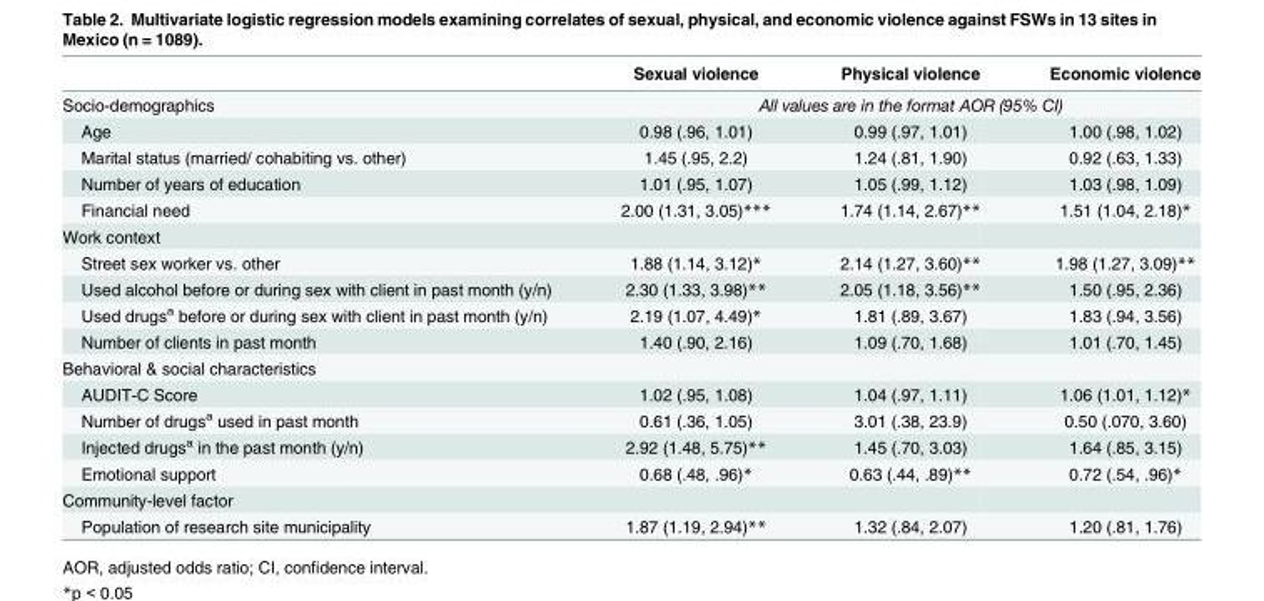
<table><thead><tr><td></td><td>Sexual violence</td><td>Physical violence</td><td>Economic violence</td></tr></thead><tbody><tr><td>Socio-demographics</td><td colspan="3">All values are in the format AOR (95% CI)</td></tr><tr><td>Age</td><td>0.98 (.96, 1.01)</td><td>0.99 (.97, 1.01)</td><td>1.00 (.98, 1.02)</td></tr><tr><td>Marital status (married/ cohabiting vs. other)</td><td>1.45 (.95, 2.2)</td><td>1.24 (.81, 1.90)</td><td>0.92 (.63, 1.33)</td></tr><tr><td>Number of years of education</td><td>1.01 (.95, 1.07)</td><td>1.05 (.99, 1.12)</td><td>1.03 (.98, 1.09)</td></tr><tr><td>Financial need</td><td>2.00 (1.31, 3.05)***</td><td>1.74 (1.14, 2.67)**</td><td>1.51 (1.04, 2.18)*</td></tr><tr><td colspan="4">Work context</td></tr><tr><td>Street sex worker vs. other</td><td>1.88 (1.14, 3.12)*</td><td>2.14 (1.27, 3.60)**</td><td>1.98 (1.27, 3.09)**</td></tr><tr><td>Used alcohol before or during sex with client in past month (y/n)</td><td>2.30 (1.33, 3.98)**</td><td>2.05 (1.18, 3.56)**</td><td>1.50 (.95, 2.36)</td></tr><tr><td>Used drugs<sup>a</sup> before or during sex with client in past month (y/n)</td><td>2.19 (1.07, 4.49)*</td><td>1.81 (.89, 3.67)</td><td>1.83 (.94, 3.56)</td></tr><tr><td>Number of clients in past month</td><td>1.40 (.90, 2.16)</td><td>1.09 (.70, 1.68)</td><td>1.01 (.70, 1.45)</td></tr><tr><td colspan="4">Behavioral &amp; social characteristics</td></tr><tr><td>AUDIT-C Score</td><td>1.02 (.95, 1.08)</td><td>1.04 (.97, 1.11)</td><td>1.06 (1.01, 1.12)*</td></tr><tr><td>Number of drugs<sup>a</sup> used in past month</td><td>0.61 (.36, 1.05)</td><td>3.01 (.38, 23.9)</td><td>0.50 (.070, 3.60)</td></tr><tr><td>Injected drugs<sup>a</sup> in the past month (y/n)</td><td>2.92 (1.48, 5.75)**</td><td>1.45 (.70, 3.03)</td><td>1.64 (.85, 3.15)</td></tr><tr><td>Emotional support</td><td>0.68 (.48, .96)*</td><td>0.63 (.44, .89)**</td><td>0.72 (.54, .96)*</td></tr><tr><td colspan="4">Community-level factor</td></tr><tr><td>Population of research site municipality</td><td>1.87 (1.19, 2.94)**</td><td>1.32 (.84, 2.07)</td><td>1.20 (.81, 1.76)</td></tr></tbody></table>